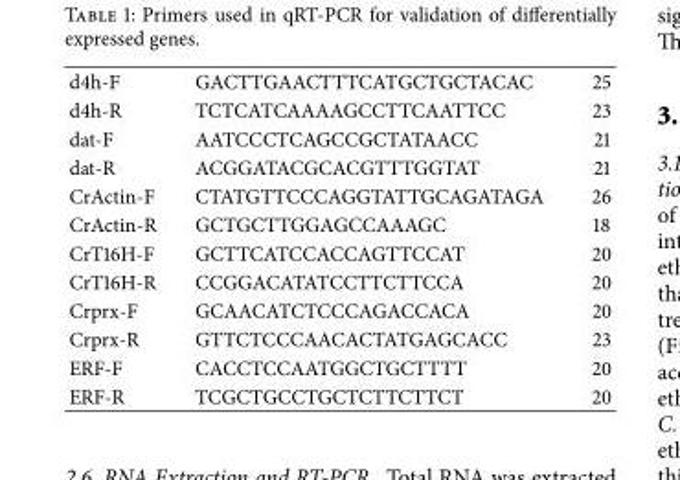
<table><tbody><tr><td>d4h-F</td><td>GACTTGAACTTTCATGCTGCTACAC</td><td>25</td></tr><tr><td>d4h-R</td><td>TCTCATCAAAAGCCTTCAATTCC</td><td>23</td></tr><tr><td>dat-F</td><td>AATCCCTCAGCCGCTATAACC</td><td>21</td></tr><tr><td>dat-R</td><td>ACGGATACGCACGTTTGGTAT</td><td>21</td></tr><tr><td>CrActin-F</td><td>CTATGTTCCCAGGTATTGCAGATAGA</td><td>26</td></tr><tr><td>CrActin-R</td><td>GCTGCTTGGAGCCAAAGC</td><td>18</td></tr><tr><td>CrT16H-F</td><td>GCTTCATCCACCAGTTCCAT</td><td>20</td></tr><tr><td>CrT16H-R</td><td>CCGGACATATCCTTCTTCCA</td><td>20</td></tr><tr><td>Crprx-F</td><td>GCAACATCTCCCAGACCACA</td><td>20</td></tr><tr><td>Crprx-R</td><td>GTTCTCCCAACACTATGAGCACC</td><td>23</td></tr><tr><td>ERF-F</td><td>CACCTCCAATGGCTGCTTTT</td><td>20</td></tr><tr><td>ERF-R</td><td>TCGCTGCCTGCTCTTCTTCT</td><td>20</td></tr></tbody></table>